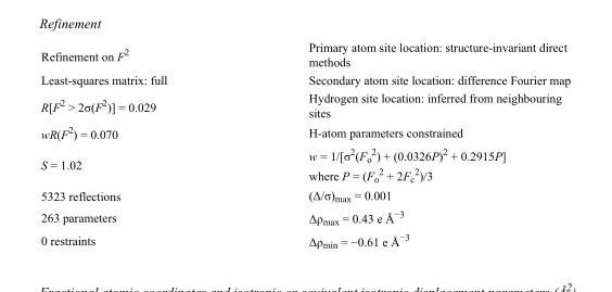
<table><tbody><tr><td>Refinement on F<sup>2</sup></td><td>Primary atom site location: structure-invariant direct methods</td></tr><tr><td>Least-squares matrix: full</td><td>Secondary atom site location: difference Fourier map</td></tr><tr><td>R[F<sup>2</sup> &gt; 2σ(F<sup>2</sup>)] = 0.029</td><td>Hydrogen site location: inferred from neighbouring sites</td></tr><tr><td>wR(F<sup>2</sup>) = 0.070</td><td>H-atom parameters constrained</td></tr><tr><td>S = 1.02</td><td>w = 1/[σ<sup>2</sup>(F<sub>o</sub> <sup>2</sup>) + (0.0326P)<sup>2</sup> + 0.2915P] where P = (F<sub>o</sub> <sup>2</sup> + 2F<sub>c</sub> <sup>2</sup>)/3</td></tr><tr><td>5323 reflections</td><td>(Δ/σ)<sub>max</sub> = 0.001</td></tr><tr><td>263 parameters</td><td>Δρ<sub>max</sub> = 0.43 e Å<sup>−3</sup></td></tr><tr><td>0 restraints</td><td>Δρ<sub>min</sub> = −0.61 e Å<sup>−3</sup></td></tr></tbody></table>